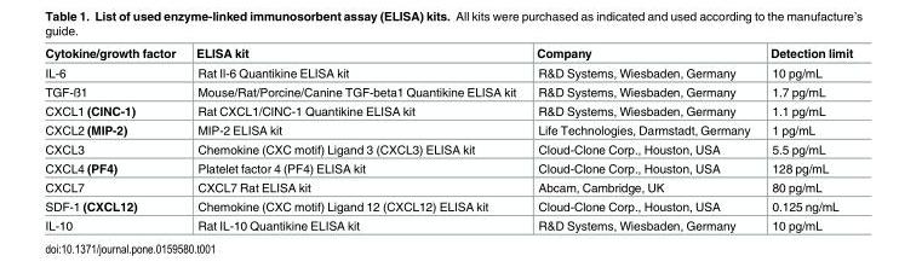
<table><thead><tr><td>Cytokine/growth factor</td><td>ELISA kit</td><td>Company</td><td>Detection limit</td></tr></thead><tbody><tr><td>IL-6</td><td>Rat Il-6 Quantikine ELISA kit</td><td>R&amp;D Systems, Wiesbaden, Germany</td><td>10 pg/mL</td></tr><tr><td>TGF-ß1</td><td>Mouse/Rat/Porcine/Canine TGF-beta1 Quantikine ELISA kit</td><td>R&amp;D Systems, Wiesbaden, Germany</td><td>1.7 pg/mL</td></tr><tr><td>CXCL1 (CINC-1)</td><td>Rat CXCL1/CINC-1 Quantikine ELISA kit</td><td>R&amp;D Systems, Wiesbaden, Germany</td><td>1.1 pg/mL</td></tr><tr><td>CXCL2 (MIP-2)</td><td>MIP-2 ELISA kit</td><td>Life Technologies, Darmstadt, Germany</td><td>1 pg/mL</td></tr><tr><td>CXCL3</td><td>Chemokine (CXC motif) Ligand 3 (CXCL3) ELISA kit</td><td>Cloud-Clone Corp., Houston, USA</td><td>5.5 pg/mL</td></tr><tr><td>CXCL4 (PF4)</td><td>Platelet factor 4 (PF4) ELISA kit</td><td>Cloud-Clone Corp., Houston, USA</td><td>128 pg/mL</td></tr><tr><td>CXCL7</td><td>CXCL7 Rat ELISA kit</td><td>Abcam, Cambridge, UK</td><td>80 pg/mL</td></tr><tr><td>SDF-1 (CXCL12)</td><td>Chemokine (CXC motif) Ligand 12 (CXCL12) ELISA kit</td><td>Cloud-Clone Corp., Houston, USA</td><td>0.125 ng/mL</td></tr><tr><td>IL-10</td><td>Rat IL-10 Quantikine ELISA kit</td><td>R&amp;D Systems, Wiesbaden, Germany</td><td>10 pg/mL</td></tr></tbody></table>